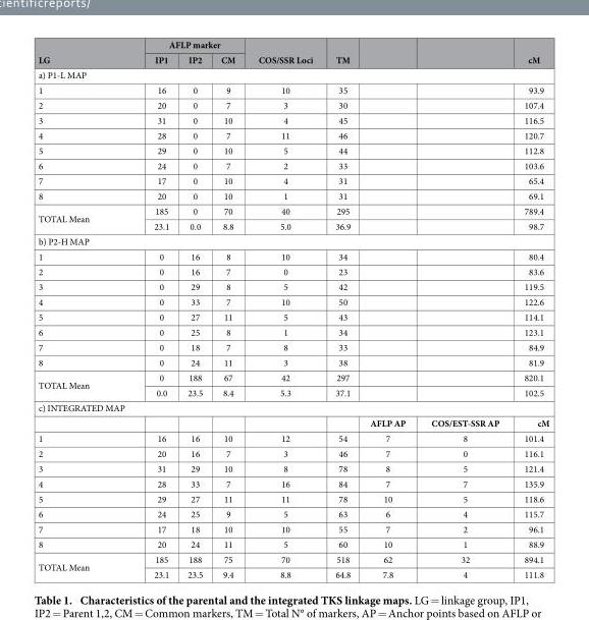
<table><thead><tr><td rowspan="2">LG</td><td colspan="3">AFLP marker</td><td rowspan="2">COS/SSR Loci</td><td rowspan="2">TM</td><td rowspan="2"></td><td rowspan="2"></td><td rowspan="2">cM</td></tr><tr><td>IP1</td><td>IP2</td><td>CM</td></tr></thead><tbody><tr><td colspan="9">a) P1-L MAP</td></tr><tr><td>1</td><td>16</td><td>0</td><td>9</td><td>10</td><td>35</td><td></td><td></td><td>93.9</td></tr><tr><td>2</td><td>20</td><td>0</td><td>7</td><td>3</td><td>30</td><td></td><td></td><td>107.4</td></tr><tr><td>3</td><td>31</td><td>0</td><td>10</td><td>4</td><td>45</td><td></td><td></td><td>116.5</td></tr><tr><td>4</td><td>28</td><td>0</td><td>7</td><td>11</td><td>46</td><td></td><td></td><td>120.7</td></tr><tr><td>5</td><td>29</td><td>0</td><td>10</td><td>5</td><td>44</td><td></td><td></td><td>112.8</td></tr><tr><td>6</td><td>24</td><td>0</td><td>7</td><td>2</td><td>33</td><td></td><td></td><td>103.6</td></tr><tr><td>7</td><td>17</td><td>0</td><td>10</td><td>4</td><td>31</td><td></td><td></td><td>65.4</td></tr><tr><td>8</td><td>20</td><td>0</td><td>10</td><td>1</td><td>31</td><td></td><td></td><td>69.1</td></tr><tr><td rowspan="2">TOTAL Mean</td><td>185</td><td>0</td><td>70</td><td>40</td><td>295</td><td></td><td></td><td>789.4</td></tr><tr><td>23.1</td><td>0.0</td><td>8.8</td><td>5.0</td><td>36.9</td><td></td><td></td><td>98.7</td></tr><tr><td colspan="9">b) P2-H MAP</td></tr><tr><td>1</td><td>0</td><td>16</td><td>8</td><td>10</td><td>34</td><td></td><td></td><td>80.4</td></tr><tr><td>2</td><td>0</td><td>16</td><td>7</td><td>0</td><td>23</td><td></td><td></td><td>83.6</td></tr><tr><td>3</td><td>0</td><td>29</td><td>8</td><td>5</td><td>42</td><td></td><td></td><td>119.5</td></tr><tr><td>4</td><td>0</td><td>33</td><td>7</td><td>10</td><td>50</td><td></td><td></td><td>122.6</td></tr><tr><td>5</td><td>0</td><td>27</td><td>11</td><td>5</td><td>43</td><td></td><td></td><td>114.1</td></tr><tr><td>6</td><td>0</td><td>25</td><td>8</td><td>1</td><td>34</td><td></td><td></td><td>123.1</td></tr><tr><td>7</td><td>0</td><td>18</td><td>7</td><td>8</td><td>33</td><td></td><td></td><td>84.9</td></tr><tr><td>8</td><td>0</td><td>24</td><td>11</td><td>3</td><td>38</td><td></td><td></td><td>81.9</td></tr><tr><td rowspan="2">TOTAL Mean</td><td>0</td><td>188</td><td>67</td><td>42</td><td>297</td><td></td><td></td><td>820.1</td></tr><tr><td>0.0</td><td>23.5</td><td>8.4</td><td>5.3</td><td>37.1</td><td></td><td></td><td>102.5</td></tr><tr><td colspan="9">c) INTEGRATED MAP</td></tr><tr><td></td><td></td><td></td><td></td><td></td><td></td><td>AFLP AP</td><td>COS/EST-SSR AP</td><td>cM</td></tr><tr><td>1</td><td>16</td><td>16</td><td>10</td><td>12</td><td>54</td><td>7</td><td>8</td><td>101.4</td></tr><tr><td>2</td><td>20</td><td>16</td><td>7</td><td>3</td><td>46</td><td>7</td><td>0</td><td>116.1</td></tr><tr><td>3</td><td>31</td><td>29</td><td>10</td><td>8</td><td>78</td><td>8</td><td>5</td><td>121.4</td></tr><tr><td>4</td><td>28</td><td>33</td><td>7</td><td>16</td><td>84</td><td>7</td><td>7</td><td>135.9</td></tr><tr><td>5</td><td>29</td><td>27</td><td>11</td><td>11</td><td>78</td><td>10</td><td>5</td><td>118.6</td></tr><tr><td>6</td><td>24</td><td>25</td><td>9</td><td>5</td><td>63</td><td>6</td><td>4</td><td>115.7</td></tr><tr><td>7</td><td>17</td><td>18</td><td>10</td><td>10</td><td>55</td><td>7</td><td>2</td><td>96.1</td></tr><tr><td>8</td><td>20</td><td>24</td><td>11</td><td>5</td><td>60</td><td>10</td><td>1</td><td>88.9</td></tr><tr><td rowspan="2">TOTAL Mean</td><td>185</td><td>188</td><td>75</td><td>70</td><td>518</td><td>62</td><td>32</td><td>894.1</td></tr><tr><td>23.1</td><td>23.5</td><td>9.4</td><td>8.8</td><td>64.8</td><td>7.8</td><td>4</td><td>111.8</td></tr></tbody></table>